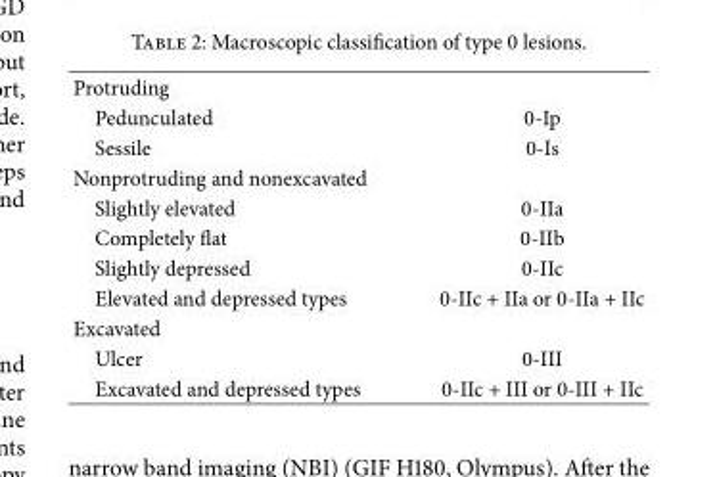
<table><tbody><tr><td colspan="2">Protruding</td></tr><tr><td>Pedunculated</td><td>0-Ip</td></tr><tr><td>Sessile</td><td>0-Is</td></tr><tr><td colspan="2">Nonprotruding and nonexcavated</td></tr><tr><td>Slightly elevated</td><td>0-IIa</td></tr><tr><td>Completely flat</td><td>0-IIb</td></tr><tr><td>Slightly depressed</td><td>0-IIc</td></tr><tr><td>Elevated and depressed types</td><td>0-IIc + IIa or 0-IIa + IIc</td></tr><tr><td colspan="2">Excavated</td></tr><tr><td>Ulcer</td><td>0-III</td></tr><tr><td>Excavated and depressed types</td><td>0-IIc + III or 0-III + IIc</td></tr></tbody></table>